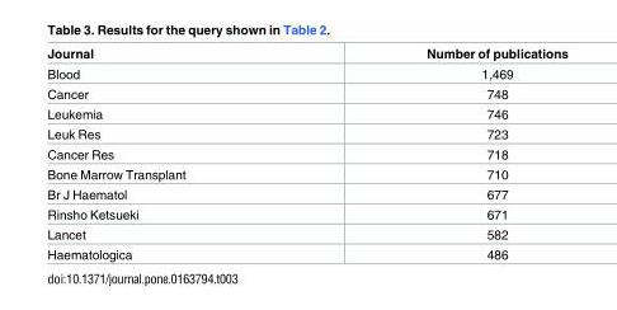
<table><thead><tr><td>Journal</td><td>Number of publications</td></tr></thead><tbody><tr><td>Blood</td><td>1,469</td></tr><tr><td>Cancer</td><td>748</td></tr><tr><td>Leukemia</td><td>746</td></tr><tr><td>Leuk Res</td><td>723</td></tr><tr><td>Cancer Res</td><td>718</td></tr><tr><td>Bone Marrow Transplant</td><td>710</td></tr><tr><td>Br J Haematol</td><td>677</td></tr><tr><td>Rinsho Ketsueki</td><td>671</td></tr><tr><td>Lancet</td><td>582</td></tr><tr><td>Haematologica</td><td>486</td></tr></tbody></table>